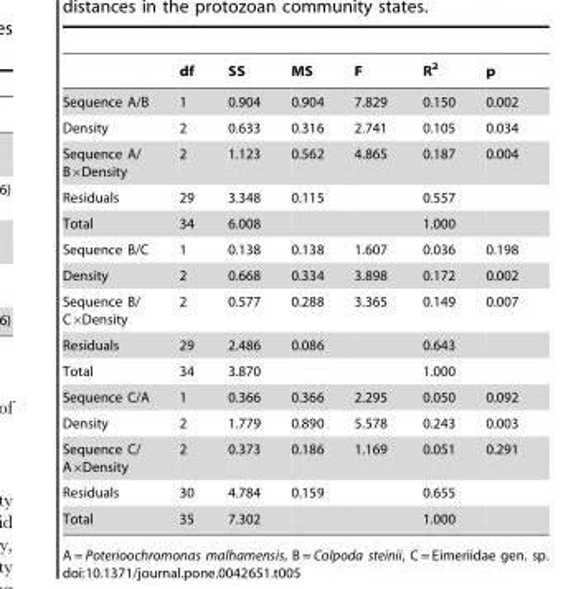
<table><thead><tr><td></td><td>df</td><td>SS</td><td>MS</td><td>F</td><td>R<sup>2</sup></td><td>p</td></tr></thead><tbody><tr><td>Sequence A/B</td><td>1</td><td>0.904</td><td>0.904</td><td>7.829</td><td>0.150</td><td>0.002</td></tr><tr><td>Density</td><td>2</td><td>0.633</td><td>0.316</td><td>2.741</td><td>0.105</td><td>0.034</td></tr><tr><td>Sequence A/ B×Density</td><td>2</td><td>1.123</td><td>0.562</td><td>4.865</td><td>0.187</td><td>0.004</td></tr><tr><td>Residuals</td><td>29</td><td>3.348</td><td>0.115</td><td></td><td>0.557</td><td></td></tr><tr><td>Total</td><td>34</td><td>6.008</td><td></td><td></td><td>1.000</td><td></td></tr><tr><td>Sequence B/C</td><td>1</td><td>0.138</td><td>0.138</td><td>1.607</td><td>0.036</td><td>0.198</td></tr><tr><td>Density</td><td>2</td><td>0.668</td><td>0.334</td><td>3.898</td><td>0.172</td><td>0.002</td></tr><tr><td>Sequence B/ C×Density</td><td>2</td><td>0.577</td><td>0.288</td><td>3.365</td><td>0.149</td><td>0.007</td></tr><tr><td>Residuals</td><td>29</td><td>2.486</td><td>0.086</td><td></td><td>0.643</td><td></td></tr><tr><td>Total</td><td>34</td><td>3.870</td><td></td><td></td><td>1.000</td><td></td></tr><tr><td>Sequence C/A</td><td>1</td><td>0.366</td><td>0.366</td><td>2.295</td><td>0.050</td><td>0.092</td></tr><tr><td>Density</td><td>2</td><td>1.779</td><td>0.890</td><td>5.578</td><td>0.243</td><td>0.003</td></tr><tr><td>Sequence C/ A×Density</td><td>2</td><td>0.373</td><td>0.186</td><td>1.169</td><td>0.051</td><td>0.291</td></tr><tr><td>Residuals</td><td>30</td><td>4.784</td><td>0.159</td><td></td><td>0.655</td><td></td></tr><tr><td>Total</td><td>35</td><td>7.302</td><td></td><td></td><td>1.000</td><td></td></tr></tbody></table>